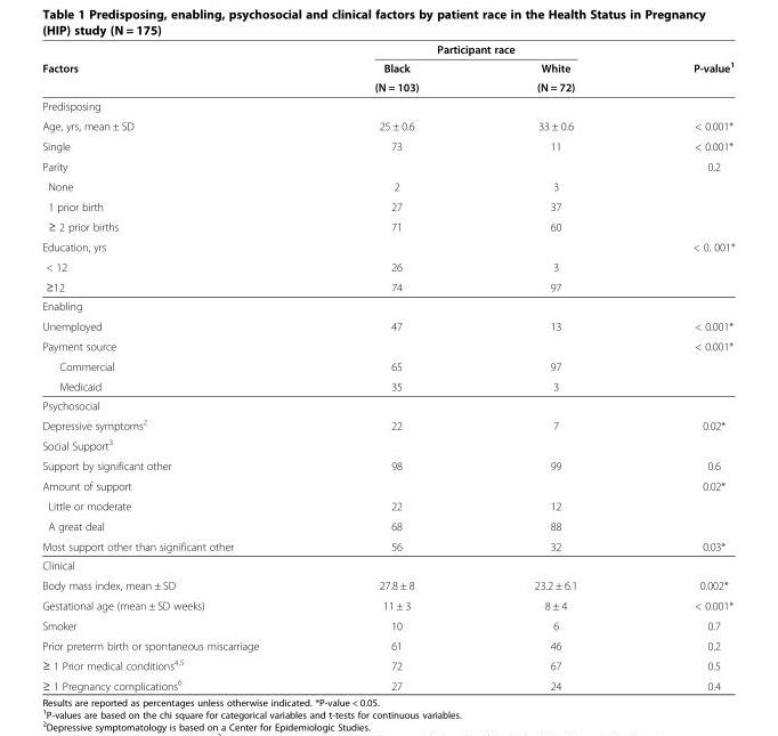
<table><thead><tr><td rowspan="3">Factors</td><td colspan="2">Participant race</td><td rowspan="3">P-value<sup>1</sup></td></tr><tr><td rowspan="2">Black (N = 103)</td><td rowspan="2">White (N = 72)</td></tr><tr></tr></thead><tbody><tr><td colspan="4">Predisposing</td></tr><tr><td>Age, yrs, mean ± SD</td><td>25 ± 0.6</td><td>33 ± 0.6</td><td>&lt; 0.001*</td></tr><tr><td>Single</td><td>73</td><td>11</td><td>&lt; 0.001*</td></tr><tr><td>Parity</td><td></td><td></td><td>0.2</td></tr><tr><td>None</td><td>2</td><td>3</td><td></td></tr><tr><td>1 prior birth</td><td>27</td><td>37</td><td></td></tr><tr><td>≥ 2 prior births</td><td>71</td><td>60</td><td></td></tr><tr><td>Education, yrs</td><td></td><td></td><td>&lt; 0. 001*</td></tr><tr><td>&lt; 12</td><td>26</td><td>3</td><td></td></tr><tr><td>≥12</td><td>74</td><td>97</td><td></td></tr><tr><td colspan="4">Enabling</td></tr><tr><td>Unemployed</td><td>47</td><td>13</td><td>&lt; 0.001*</td></tr><tr><td>Payment source</td><td></td><td></td><td>&lt; 0.001*</td></tr><tr><td>Commercial</td><td>65</td><td>97</td><td></td></tr><tr><td>Medicaid</td><td>35</td><td>3</td><td></td></tr><tr><td colspan="4">Psychosocial</td></tr><tr><td>Depressive symptoms<sup>2</sup></td><td>22</td><td>7</td><td>0.02*</td></tr><tr><td colspan="4">Social Support<sup>3</sup></td></tr><tr><td>Support by significant other</td><td>98</td><td>99</td><td>0.6</td></tr><tr><td>Amount of support</td><td></td><td></td><td>0.02*</td></tr><tr><td>Little or moderate</td><td>22</td><td>12</td><td></td></tr><tr><td>A great deal</td><td>68</td><td>88</td><td></td></tr><tr><td>Most support other than significant other</td><td>56</td><td>32</td><td>0.03*</td></tr><tr><td colspan="4">Clinical</td></tr><tr><td>Body mass index, mean ± SD</td><td>27.8 ± 8</td><td>23.2 ± 6.1</td><td>0.002*</td></tr><tr><td>Gestational age (mean ± SD weeks)</td><td>11 ± 3</td><td>8 ± 4</td><td>&lt; 0.001*</td></tr><tr><td>Smoker</td><td>10</td><td>6</td><td>0.7</td></tr><tr><td>Prior preterm birth or spontaneous miscarriage</td><td>61</td><td>46</td><td>0.2</td></tr><tr><td>≥ 1 Prior medical conditions<sup>4,5</sup></td><td>72</td><td>67</td><td>0.5</td></tr><tr><td>≥ 1 Pregnancy complications<sup>6</sup></td><td>27</td><td>24</td><td>0.4</td></tr></tbody></table>